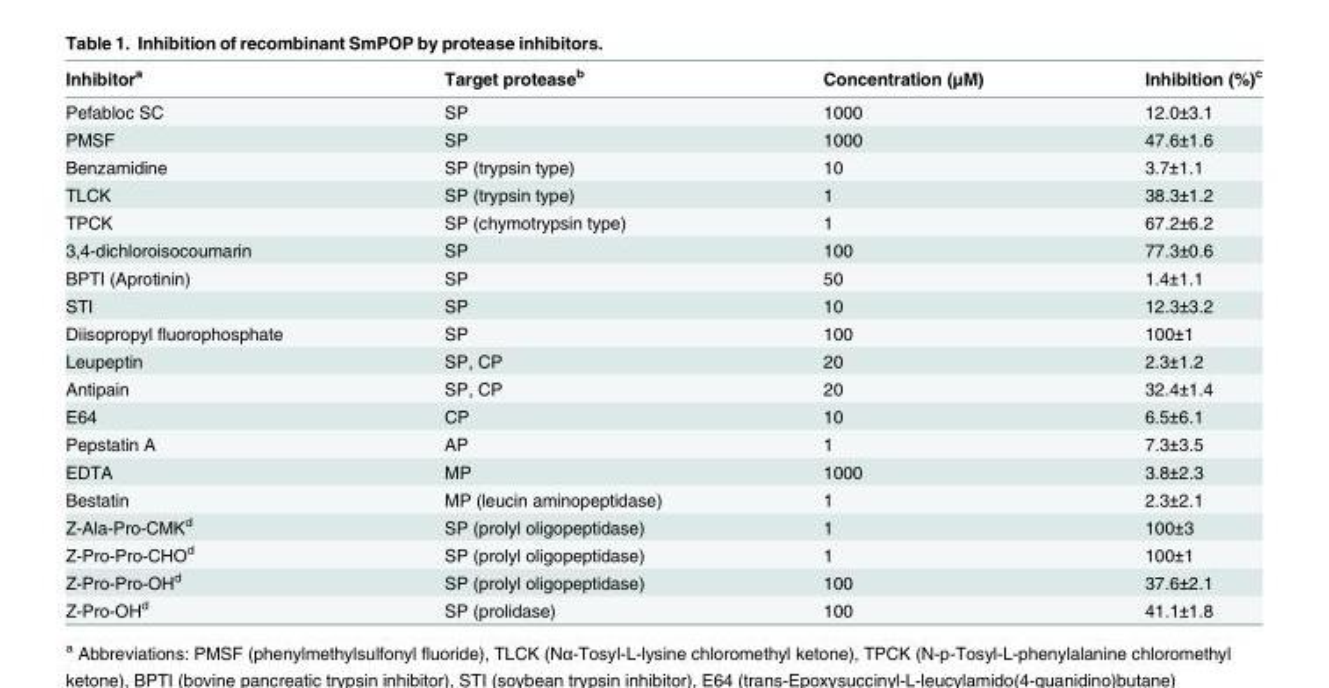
<table><thead><tr><td>Inhibitor<sup>a</sup></td><td>Target protease<sup>b</sup></td><td>Concentration (μM)</td><td>Inhibition (%)<sup>c</sup></td></tr></thead><tbody><tr><td>Pefabloc SC</td><td>SP</td><td>1000</td><td>12.0±3.1</td></tr><tr><td>PMSF</td><td>SP</td><td>1000</td><td>47.6±1.6</td></tr><tr><td>Benzamidine</td><td>SP (trypsin type)</td><td>10</td><td>3.7±1.1</td></tr><tr><td>TLCK</td><td>SP (trypsin type)</td><td>1</td><td>38.3±1.2</td></tr><tr><td>TPCK</td><td>SP (chymotrypsin type)</td><td>1</td><td>67.2±6.2</td></tr><tr><td>3,4-dichloroisocoumarin</td><td>SP</td><td>100</td><td>77.3±0.6</td></tr><tr><td>BPTI (Aprotinin)</td><td>SP</td><td>50</td><td>1.4±1.1</td></tr><tr><td>STI</td><td>SP</td><td>10</td><td>12.3±3.2</td></tr><tr><td>Diisopropyl fluorophosphate</td><td>SP</td><td>100</td><td>100±1</td></tr><tr><td>Leupeptin</td><td>SP, CP</td><td>20</td><td>2.3±1.2</td></tr><tr><td>Antipain</td><td>SP, CP</td><td>20</td><td>32.4±1.4</td></tr><tr><td>E64</td><td>CP</td><td>10</td><td>6.5±6.1</td></tr><tr><td>Pepstatin A</td><td>AP</td><td>1</td><td>7.3±3.5</td></tr><tr><td>EDTA</td><td>MP</td><td>1000</td><td>3.8±2.3</td></tr><tr><td>Bestatin</td><td>MP (leucin aminopeptidase)</td><td>1</td><td>2.3±2.1</td></tr><tr><td>Z-Ala-Pro-CMK<sup>d</sup></td><td>SP (prolyl oligopeptidase)</td><td>1</td><td>100±3</td></tr><tr><td>Z-Pro-Pro-CHO<sup>d</sup></td><td>SP (prolyl oligopeptidase)</td><td>1</td><td>100±1</td></tr><tr><td>Z-Pro-Pro-OH<sup>d</sup></td><td>SP (prolyl oligopeptidase)</td><td>100</td><td>37.6±2.1</td></tr><tr><td>Z-Pro-OH<sup>d</sup></td><td>SP (prolidase)</td><td>100</td><td>41.1±1.8</td></tr></tbody></table>